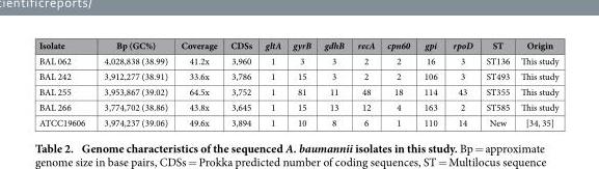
<table><thead><tr><td>Isolate</td><td>Bp (GC%)</td><td>Coverage</td><td>CDSs</td><td>gltA</td><td>gyrB</td><td>gdhB</td><td>recA</td><td>cpn60</td><td>gpi</td><td>rpoD</td><td>ST</td><td>Origin</td></tr></thead><tbody><tr><td>BAL 062</td><td>4,028,838 (38.99)</td><td>41.2x</td><td>3,960</td><td>1</td><td>3</td><td>3</td><td>2</td><td>2</td><td>16</td><td>3</td><td>ST136</td><td>This study</td></tr><tr><td>BAL 242</td><td>3,912,277 (38.91)</td><td>33.6x</td><td>3,786</td><td>1</td><td>15</td><td>3</td><td>2</td><td>2</td><td>106</td><td>3</td><td>ST493</td><td>This study</td></tr><tr><td>BAL 255</td><td>3,953,867 (39.02)</td><td>64.5x</td><td>3,752</td><td>1</td><td>81</td><td>11</td><td>48</td><td>18</td><td>114</td><td>43</td><td>ST355</td><td>This study</td></tr><tr><td>BAL 266</td><td>3,774,702 (38.86)</td><td>43.8x</td><td>3,645</td><td>1</td><td>15</td><td>13</td><td>12</td><td>4</td><td>163</td><td>2</td><td>ST585</td><td>This study</td></tr><tr><td>ATCC19606</td><td>3,974,237 (39.06)</td><td>49.6x</td><td>3,894</td><td>1</td><td>10</td><td>8</td><td>6</td><td>1</td><td>110</td><td>14</td><td>New</td><td>[34, 35]</td></tr></tbody></table>